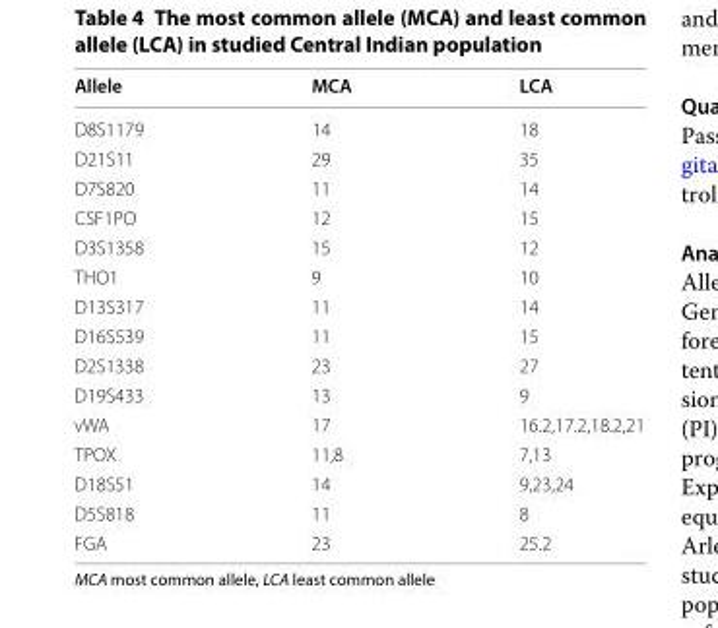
<table><thead><tr><td>Allele</td><td>MCA</td><td>LCA</td></tr></thead><tbody><tr><td>D8S1179</td><td>14</td><td>18</td></tr><tr><td>D21S11</td><td>29</td><td>35</td></tr><tr><td>D7S820</td><td>11</td><td>14</td></tr><tr><td>CSF1PO</td><td>12</td><td>15</td></tr><tr><td>D3S1358</td><td>15</td><td>12</td></tr><tr><td>THO1</td><td>9</td><td>10</td></tr><tr><td>D13S317</td><td>11</td><td>14</td></tr><tr><td>D16S539</td><td>11</td><td>15</td></tr><tr><td>D2S1338</td><td>23</td><td>27</td></tr><tr><td>D19S433</td><td>13</td><td>9</td></tr><tr><td>vWA</td><td>17</td><td>16.2,17.2,18.2,21</td></tr><tr><td>TPOX</td><td>11,8</td><td>7,13</td></tr><tr><td>D18S51</td><td>14</td><td>9,23,24</td></tr><tr><td>D5S818</td><td>11</td><td>8</td></tr><tr><td>FGA</td><td>23</td><td>25.2</td></tr></tbody></table>